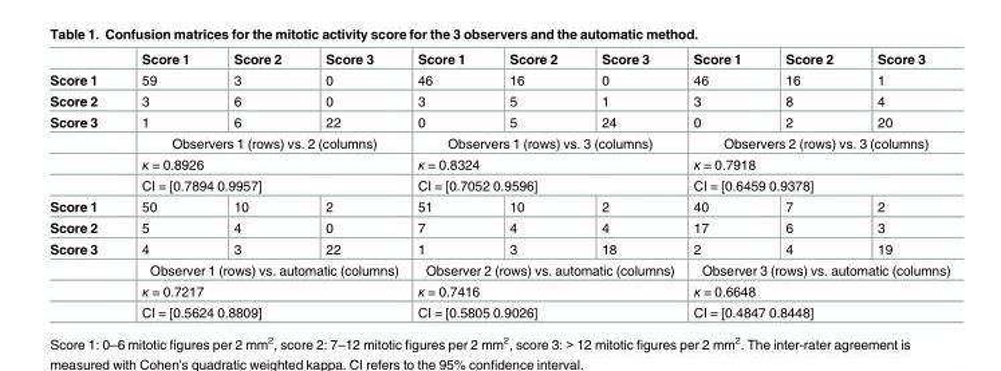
<table><thead><tr><td></td><td>Score 1</td><td>Score 2</td><td>Score 3</td><td>Score 1</td><td>Score 2</td><td>Score 3</td><td>Score 1</td><td>Score 2</td><td>Score 3</td></tr></thead><tbody><tr><td>Score 1</td><td>59</td><td>3</td><td>0</td><td>46</td><td>16</td><td>0</td><td>46</td><td>16</td><td>1</td></tr><tr><td>Score 2</td><td>3</td><td>6</td><td>0</td><td>3</td><td>5</td><td>1</td><td>3</td><td>8</td><td>4</td></tr><tr><td rowspan="4">Score 3</td><td>1</td><td>6</td><td>22</td><td>0</td><td>5</td><td>24</td><td>0</td><td>2</td><td>20</td></tr><tr><td colspan="3">Observers 1 (rows) vs. 2 (columns)</td><td colspan="3">Observers 1 (rows) vs. 3 (columns)</td><td colspan="3">Observers 2 (rows) vs. 3 (columns)</td></tr><tr><td colspan="3">κ = 0.8926</td><td colspan="3">κ = 0.8324</td><td colspan="3">κ = 0.7918</td></tr><tr><td colspan="3">CI = [0.7894 0.9957]</td><td colspan="3">CI = [0.7052 0.9596]</td><td colspan="3">CI = [0.6459 0.9378]</td></tr><tr><td>Score 1</td><td>50</td><td>10</td><td>2</td><td>51</td><td>10</td><td>2</td><td>40</td><td>7</td><td>2</td></tr><tr><td>Score 2</td><td>5</td><td>4</td><td>0</td><td>7</td><td>4</td><td>4</td><td>17</td><td>6</td><td>3</td></tr><tr><td rowspan="4">Score 3</td><td>4</td><td>3</td><td>22</td><td>1</td><td>3</td><td>18</td><td>2</td><td>4</td><td>19</td></tr><tr><td colspan="3">Observer 1 (rows) vs. automatic (columns)</td><td colspan="3">Observer 2 (rows) vs. automatic (columns)</td><td colspan="3">Observer 3 (rows) vs. automatic (columns)</td></tr><tr><td colspan="3">κ = 0.7217</td><td colspan="3">κ = 0.7416</td><td colspan="3">κ = 0.6648</td></tr><tr><td colspan="3">CI = [0.5624 0.8809]</td><td colspan="3">CI = [0.5805 0.9026]</td><td colspan="3">CI = [0.4847 0.8448]</td></tr></tbody></table>